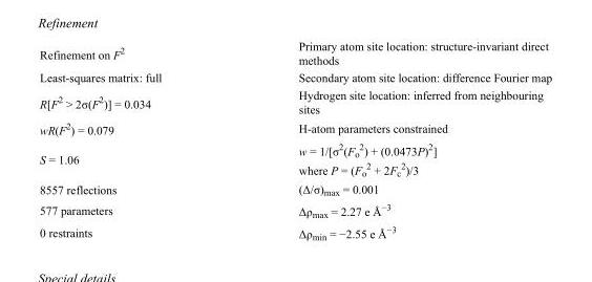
<table><tbody><tr><td>Refinement on F<sup>2</sup></td><td>Primary atom site location: structure-invariant direct methods</td></tr><tr><td>Least-squares matrix: full</td><td>Secondary atom site location: difference Fourier map</td></tr><tr><td>R[F<sup>2</sup> &gt; 2σ(F<sup>2</sup>)] = 0.034</td><td>Hydrogen site location: inferred from neighbouring sites</td></tr><tr><td>wR(F<sup>2</sup>) = 0.079</td><td>H-atom parameters constrained</td></tr><tr><td>S = 1.06</td><td>w = 1/[σ<sup>2</sup>(F<sub>o</sub> <sup>2</sup>) + (0.0473P)<sup>2</sup>] where P = (F<sub>o</sub> <sup>2</sup> + 2F<sub>c</sub> <sup>2</sup>)/3</td></tr><tr><td>8557 reflections</td><td>(Δ/σ)<sub>max</sub> = 0.001</td></tr><tr><td>577 parameters</td><td>Δρ<sub>max</sub> = 2.27 e Å<sup>−3</sup></td></tr><tr><td>0 restraints</td><td>Δρ<sub>min</sub> = −2.55 e Å<sup>−3</sup></td></tr></tbody></table>